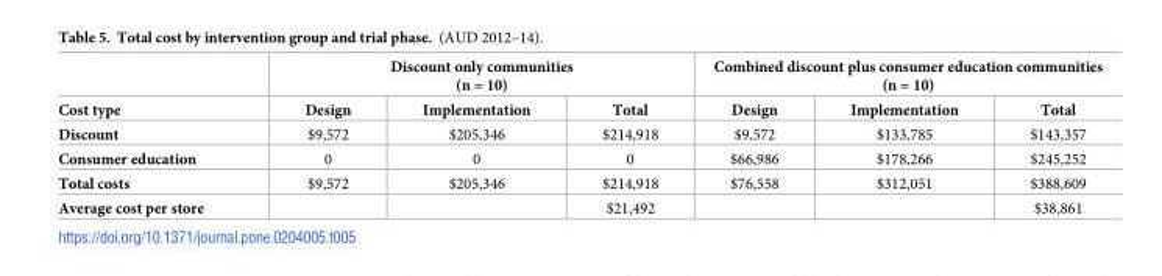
<table><thead><tr><td rowspan="2">Cost type</td><td colspan="3">Discount only communities (n = 10)</td><td colspan="3">Combined discount plus consumer education communities (n = 10)</td></tr><tr><td>Design</td><td>Implementation</td><td>Total</td><td>Design</td><td>Implementation</td><td>Total</td></tr></thead><tbody><tr><td>Discount</td><td>$9,572</td><td>$205,346</td><td>$214,918</td><td>$9,572</td><td>$133,785</td><td>$143,357</td></tr><tr><td>Consumer education</td><td>0</td><td>0</td><td>0</td><td>$66,986</td><td>$178,266</td><td>$245,252</td></tr><tr><td>Total costs</td><td>$9,572</td><td>$205,346</td><td>$214,918</td><td>$76,558</td><td>$312,051</td><td>$388,609</td></tr><tr><td>Average cost per store</td><td></td><td></td><td>$21,492</td><td></td><td></td><td>$38,861</td></tr></tbody></table>